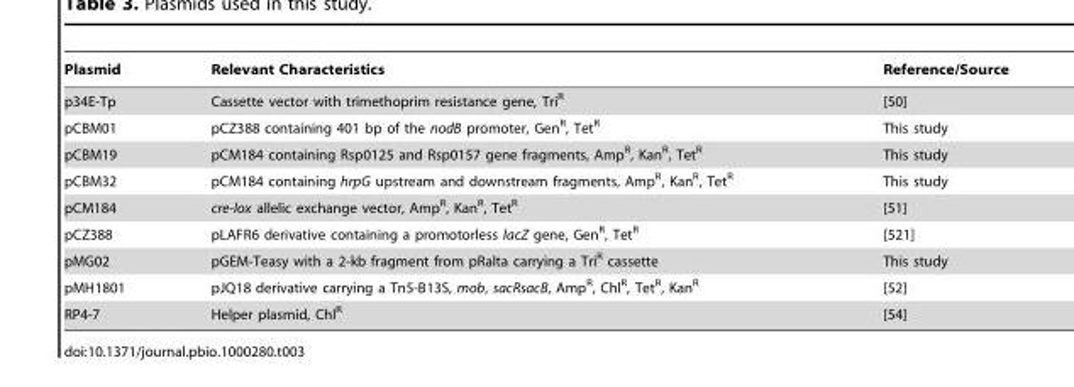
<table><thead><tr><td>Plasmid</td><td>Relevant Characteristics</td><td>Reference/Source</td></tr></thead><tbody><tr><td>p34E-Tp</td><td>Cassette vector with trimethoprim resistance gene, Tri<sup>R</sup></td><td>[50]</td></tr><tr><td>pCBM01</td><td>pCZ388 containing 401 bp of the nodB promoter, Gen<sup>R</sup>, Tet<sup>R</sup></td><td>This study</td></tr><tr><td>pCBM19</td><td>pCM184 containing Rsp0125 and Rsp0157 gene fragments, Amp<sup>R</sup>, Kan<sup>R</sup>, Tet<sup>R</sup></td><td>This study</td></tr><tr><td>pCBM32</td><td>pCM184 containing hrpG upstream and downstream fragments, Amp<sup>R</sup>, Kan<sup>R</sup>, Tet<sup>R</sup></td><td>This study</td></tr><tr><td>pCM184</td><td>cre-lox allelic exchange vector, Amp<sup>R</sup>, Kan<sup>R</sup>, Tet<sup>R</sup></td><td>[51]</td></tr><tr><td>pCZ388</td><td>pLAFR6 derivative containing a promotorless lacZ gene, Gen<sup>R</sup>, Tet<sup>R</sup></td><td>[521]</td></tr><tr><td>pMG02</td><td>pGEM-Teasy with a 2-kb fragment from pRalta carrying a Tri<sup>R</sup> cassette</td><td>This study</td></tr><tr><td>pMH1801</td><td>pJQ18 derivative carrying a Tn5-B13S, mob, sacRsacB, Amp<sup>R</sup>, Chl<sup>R</sup>, Tet<sup>R</sup>, Kan<sup>R</sup></td><td>[52]</td></tr><tr><td>RP4-7</td><td>Helper plasmid, Chl<sup>R</sup></td><td>[54]</td></tr></tbody></table>